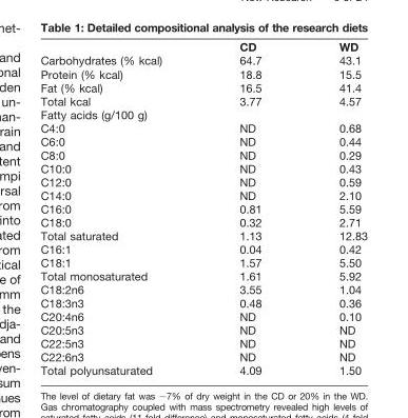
<table><thead><tr><td></td><td>CD</td><td>WD</td></tr></thead><tbody><tr><td>Carbohydrates (% kcal)</td><td>64.7</td><td>43.1</td></tr><tr><td>Protein (% kcal)</td><td>18.8</td><td>15.5</td></tr><tr><td>Fat (% kcal)</td><td>16.5</td><td>41.4</td></tr><tr><td>Total kcal</td><td>3.77</td><td>4.57</td></tr><tr><td colspan="3">Fatty acids (g/100 g)</td></tr><tr><td>C4:0</td><td>ND</td><td>0.68</td></tr><tr><td>C6:0</td><td>ND</td><td>0.44</td></tr><tr><td>C8:0</td><td>ND</td><td>0.29</td></tr><tr><td>C10:0</td><td>ND</td><td>0.43</td></tr><tr><td>C12:0</td><td>ND</td><td>0.59</td></tr><tr><td>C14:0</td><td>ND</td><td>2.10</td></tr><tr><td>C16:0</td><td>0.81</td><td>5.59</td></tr><tr><td>C18:0</td><td>0.32</td><td>2.71</td></tr><tr><td>Total saturated</td><td>1.13</td><td>12.83</td></tr><tr><td>C16:1</td><td>0.04</td><td>0.42</td></tr><tr><td>C18:1</td><td>1.57</td><td>5.50</td></tr><tr><td>Total monosaturated</td><td>1.61</td><td>5.92</td></tr><tr><td>C18:2n6</td><td>3.55</td><td>1.04</td></tr><tr><td>C18:3n3</td><td>0.48</td><td>0.36</td></tr><tr><td>C20:4n6</td><td>ND</td><td>0.10</td></tr><tr><td>C20:5n3</td><td>ND</td><td>ND</td></tr><tr><td>C22:5n3</td><td>ND</td><td>ND</td></tr><tr><td>C22:6n3</td><td>ND</td><td>ND</td></tr><tr><td>Total polyunsaturated</td><td>4.09</td><td>1.50</td></tr></tbody></table>